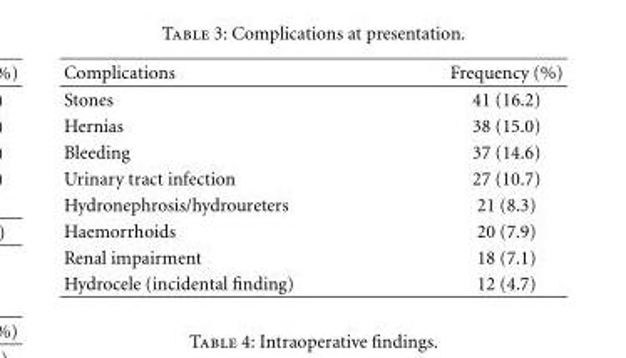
<table><thead><tr><td>Complications</td><td>Frequency (%)</td></tr></thead><tbody><tr><td>Stones</td><td>41 (16.2)</td></tr><tr><td>Hernias</td><td>38 (15.0)</td></tr><tr><td>Bleeding</td><td>37 (14.6)</td></tr><tr><td>Urinary tract infection</td><td>27 (10.7)</td></tr><tr><td>Hydronephrosis/hydroureters</td><td>21 (8.3)</td></tr><tr><td>Haemorrhoids</td><td>20 (7.9)</td></tr><tr><td>Renal impairment</td><td>18 (7.1)</td></tr><tr><td>Hydrocele (incidental finding)</td><td>12 (4.7)</td></tr></tbody></table>